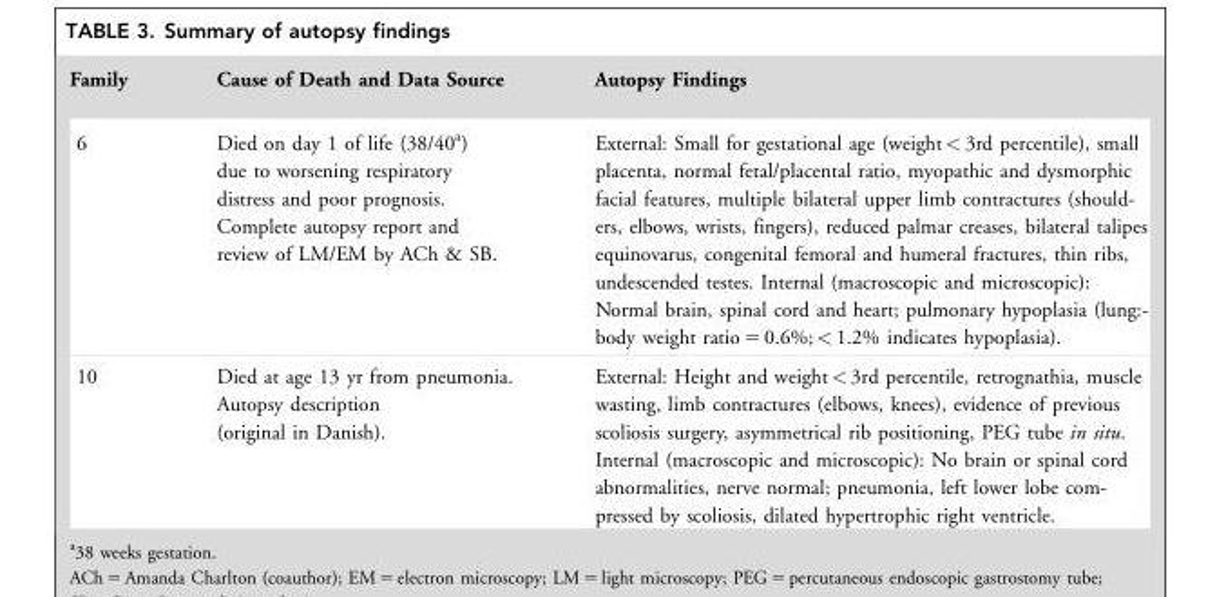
<table><thead><tr><td>Family</td><td>Cause of Death and Data Source</td><td>Autopsy Findings</td></tr></thead><tbody><tr><td>6</td><td>Died on day 1 of life (38/40<sup>a</sup>) due to worsening respiratory distress and poor prognosis. Complete autopsy report and review of LM/EM by ACh &amp; SB.</td><td>External: Small for gestational age (weight &lt; 3rd percentile), small placenta, normal fetal/placental ratio, myopathic and dysmorphic facial features, multiple bilateral upper limb contractures (should- ers, elbows, wrists, fingers), reduced palmar creases, bilateral talipes equinovarus, congenital femoral and humeral fractures, thin ribs, undescended testes. Internal (macroscopic and microscopic): Normal brain, spinal cord and heart; pulmonary hypoplasia (lung:- body weight ratio 5 0.6%; &lt; 1.2% indicates hypoplasia).</td></tr><tr><td>10</td><td>Died at age 13 yr from pneumonia. Autopsy description (original in Danish).</td><td>External: Height and weight &lt; 3rd percentile, retrognathia, muscle wasting, limb contractures (elbows, knees), evidence of previous scoliosis surgery, asymmetrical rib positioning, PEG tube in situ. Internal (macroscopic and microscopic): No brain or spinal cord abnormalities, nerve normal; pneumonia, left lower lobe com- pressed by scoliosis, dilated hypertrophic right ventricle.</td></tr></tbody></table>